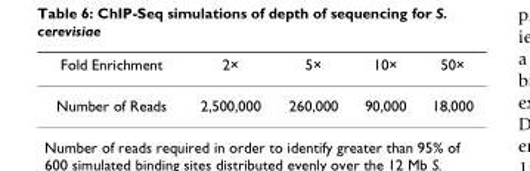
<table><thead><tr><td>Fold Enrichment</td><td>2×</td><td>5×</td><td>10×</td><td>50×</td></tr></thead><tbody><tr><td>Number of Reads</td><td>2,500,000</td><td>260,000</td><td>90,000</td><td>18,000</td></tr></tbody></table>